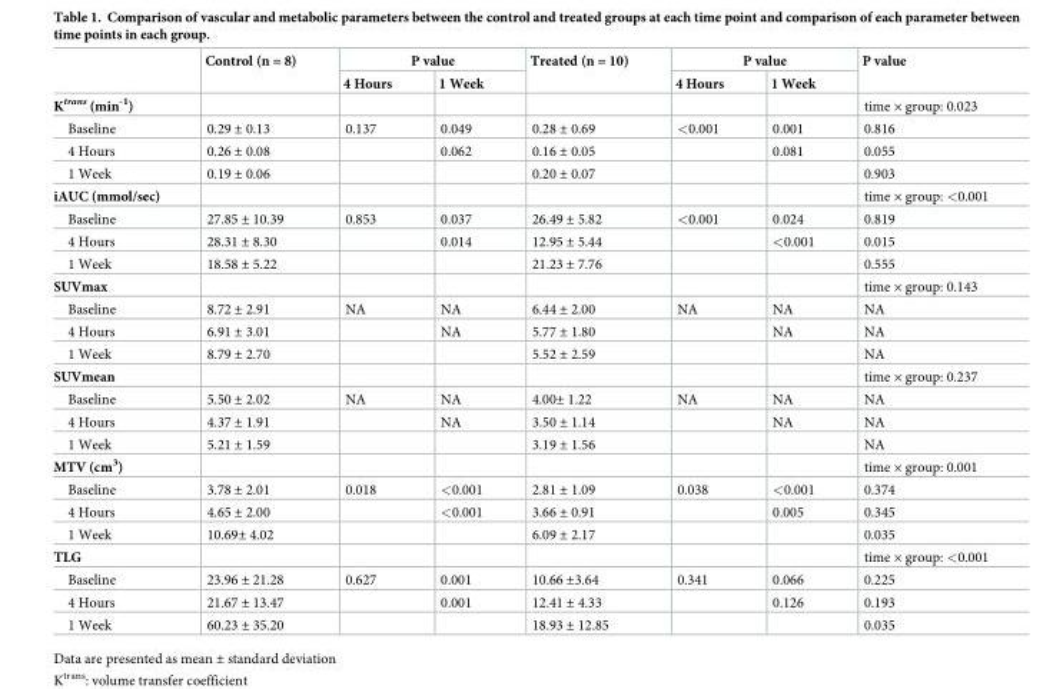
<table><thead><tr><td rowspan="2"></td><td rowspan="2">Control (n = 8)</td><td colspan="2">P value</td><td rowspan="2">Treated (n = 10)</td><td colspan="2">P value</td><td rowspan="2">P value</td></tr><tr><td>4 Hours</td><td>1 Week</td><td>4 Hours</td><td>1 Week</td></tr></thead><tbody><tr><td>K<sup>trans</sup> (min<sup>-1</sup>)</td><td></td><td></td><td></td><td></td><td></td><td></td><td>time × group: 0.023</td></tr><tr><td>Baseline</td><td>0.29 ± 0.13</td><td>0.137</td><td>0.049</td><td>0.28 ± 0.69</td><td>&lt;0.001</td><td>0.001</td><td>0.816</td></tr><tr><td>4 Hours</td><td>0.26 ± 0.08</td><td></td><td>0.062</td><td>0.16 ± 0.05</td><td></td><td>0.081</td><td>0.055</td></tr><tr><td>1 Week</td><td>0.19 ± 0.06</td><td></td><td></td><td>0.20 ± 0.07</td><td></td><td></td><td>0.903</td></tr><tr><td>iAUC (mmol/sec)</td><td></td><td></td><td></td><td></td><td></td><td></td><td>time × group: &lt;0.001</td></tr><tr><td>Baseline</td><td>27.85 ± 10.39</td><td>0.853</td><td>0.037</td><td>26.49 ± 5.82</td><td>&lt;0.001</td><td>0.024</td><td>0.819</td></tr><tr><td>4 Hours</td><td>28.31 ± 8.30</td><td></td><td>0.014</td><td>12.95 ± 5.44</td><td></td><td>&lt;0.001</td><td>0.015</td></tr><tr><td>1 Week</td><td>18.58 ± 5.22</td><td></td><td></td><td>21.23 ± 7.76</td><td></td><td></td><td>0.555</td></tr><tr><td>SUVmax</td><td></td><td></td><td></td><td></td><td></td><td></td><td>time × group: 0.143</td></tr><tr><td>Baseline</td><td>8.72 ± 2.91</td><td>NA</td><td>NA</td><td>6.44 ± 2.00</td><td>NA</td><td>NA</td><td>NA</td></tr><tr><td>4 Hours</td><td>6.91 ± 3.01</td><td></td><td>NA</td><td>5.77 ± 1.80</td><td></td><td>NA</td><td>NA</td></tr><tr><td>1 Week</td><td>8.79 ± 2.70</td><td></td><td></td><td>5.52 ± 2.59</td><td></td><td></td><td>NA</td></tr><tr><td>SUVmean</td><td></td><td></td><td></td><td></td><td></td><td></td><td>time × group: 0.237</td></tr><tr><td>Baseline</td><td>5.50 ± 2.02</td><td>NA</td><td>NA</td><td>4.00± 1.22</td><td>NA</td><td>NA</td><td>NA</td></tr><tr><td>4 Hours</td><td>4.37 ± 1.91</td><td></td><td>NA</td><td>3.50 ± 1.14</td><td></td><td>NA</td><td>NA</td></tr><tr><td>1 Week</td><td>5.21 ± 1.59</td><td></td><td></td><td>3.19 ± 1.56</td><td></td><td></td><td>NA</td></tr><tr><td>MTV (cm<sup>3</sup>)</td><td></td><td></td><td></td><td></td><td></td><td></td><td>time × group: 0.001</td></tr><tr><td>Baseline</td><td>3.78 ± 2.01</td><td>0.018</td><td>&lt;0.001</td><td>2.81 ± 1.09</td><td>0.038</td><td>&lt;0.001</td><td>0.374</td></tr><tr><td>4 Hours</td><td>4.65 ± 2.00</td><td></td><td>&lt;0.001</td><td>3.66 ± 0.91</td><td></td><td>0.005</td><td>0.345</td></tr><tr><td>1 Week</td><td>10.69± 4.02</td><td></td><td></td><td>6.09 ± 2.17</td><td></td><td></td><td>0.035</td></tr><tr><td>TLG</td><td></td><td></td><td></td><td></td><td></td><td></td><td>time × group: &lt;0.001</td></tr><tr><td>Baseline</td><td>23.96 ± 21.28</td><td>0.627</td><td>0.001</td><td>10.66 ±3.64</td><td>0.341</td><td>0.066</td><td>0.225</td></tr><tr><td>4 Hours</td><td>21.67 ± 13.47</td><td></td><td>0.001</td><td>12.41 ± 4.33</td><td></td><td>0.126</td><td>0.193</td></tr><tr><td>1 Week</td><td>60.23 ± 35.20</td><td></td><td></td><td>18.93 ± 12.85</td><td></td><td></td><td>0.035</td></tr></tbody></table>